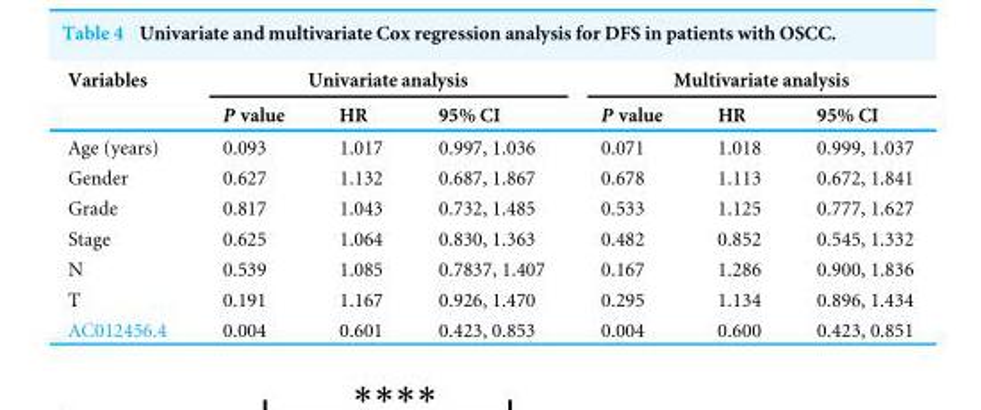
<table><thead><tr><td rowspan="2">Variables</td><td colspan="3">Univariate analysis</td><td colspan="3">Multivariate analysis</td></tr><tr><td>P value</td><td>HR</td><td>95% CI</td><td>P value</td><td>HR</td><td>95% CI</td></tr></thead><tbody><tr><td>Age (years)</td><td>0.093</td><td>1.017</td><td>0.997, 1.036</td><td>0.071</td><td>1.018</td><td>0.999, 1.037</td></tr><tr><td>Gender</td><td>0.627</td><td>1.132</td><td>0.687, 1.867</td><td>0.678</td><td>1.113</td><td>0.672, 1.841</td></tr><tr><td>Grade</td><td>0.817</td><td>1.043</td><td>0.732, 1.485</td><td>0.533</td><td>1.125</td><td>0.777, 1.627</td></tr><tr><td>Stage</td><td>0.625</td><td>1.064</td><td>0.830, 1.363</td><td>0.482</td><td>0.852</td><td>0.545, 1.332</td></tr><tr><td>N</td><td>0.539</td><td>1.085</td><td>0.7837, 1.407</td><td>0.167</td><td>1.286</td><td>0.900, 1.836</td></tr><tr><td>T</td><td>0.191</td><td>1.167</td><td>0.926, 1.470</td><td>0.295</td><td>1.134</td><td>0.896, 1.434</td></tr><tr><td>AC012456.4</td><td>0.004</td><td>0.601</td><td>0.423, 0.853</td><td>0.004</td><td>0.600</td><td>0.423, 0.851</td></tr></tbody></table>